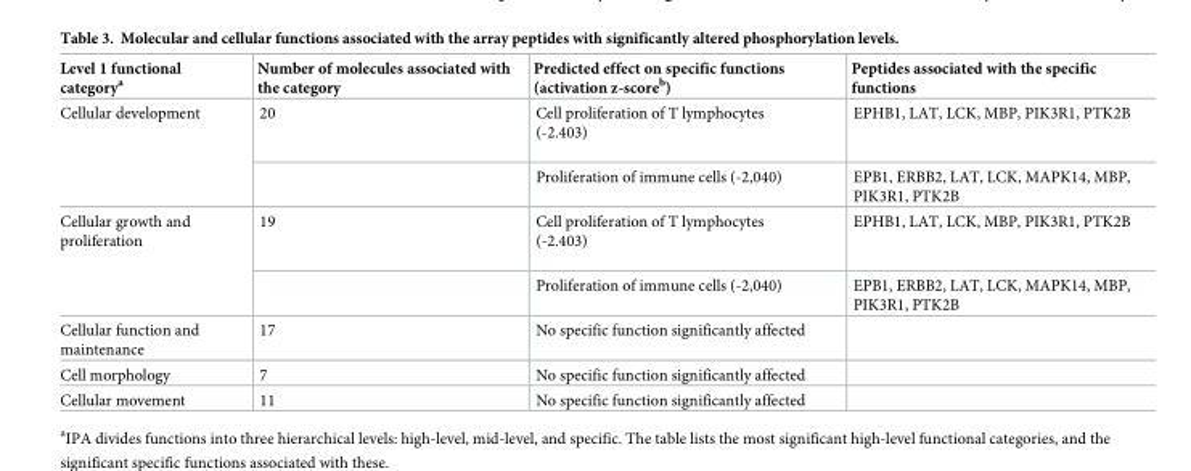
<table><thead><tr><td>Level 1 functional category<sup>a</sup></td><td>Number of molecules associated with the category</td><td>Predicted effect on specific functions (activation z-score<sup>b</sup>)</td><td>Peptides associated with the specific functions</td></tr></thead><tbody><tr><td rowspan="2">Cellular development</td><td>20</td><td>Cell proliferation of T lymphocytes (-2.403)</td><td>EPHB1, LAT, LCK, MBP, PIK3R1, PTK2B</td></tr><tr><td></td><td>Proliferation of immune cells (-2,040)</td><td>EPB1, ERBB2, LAT, LCK, MAPK14, MBP, PIK3R1, PTK2B</td></tr><tr><td rowspan="2">Cellular growth and proliferation</td><td>19</td><td>Cell proliferation of T lymphocytes (-2.403)</td><td>EPHB1, LAT, LCK, MBP, PIK3R1, PTK2B</td></tr><tr><td></td><td>Proliferation of immune cells (-2,040)</td><td>EPB1, ERBB2, LAT, LCK, MAPK14, MBP, PIK3R1, PTK2B</td></tr><tr><td>Cellular function and maintenance</td><td>17</td><td>No specific function significantly affected</td><td></td></tr><tr><td>Cell morphology</td><td>7</td><td>No specific function significantly affected</td><td></td></tr><tr><td>Cellular movement</td><td>11</td><td>No specific function significantly affected</td><td></td></tr></tbody></table>